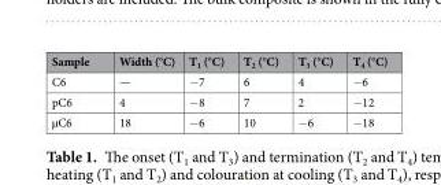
<table><thead><tr><td>Sample</td><td>Width (°C)</td><td>T<sub>1</sub> (°C)</td><td>T<sub>2</sub> (°C)</td><td>T<sub>3</sub> (°C)</td><td>T<sub>4</sub> (°C)</td></tr></thead><tbody><tr><td>C6</td><td>—</td><td>−7</td><td>6</td><td>4</td><td>−6</td></tr><tr><td>pC6</td><td>4</td><td>−8</td><td>7</td><td>2</td><td>−12</td></tr><tr><td>µC6</td><td>18</td><td>−6</td><td>10</td><td>−6</td><td>−18</td></tr></tbody></table>